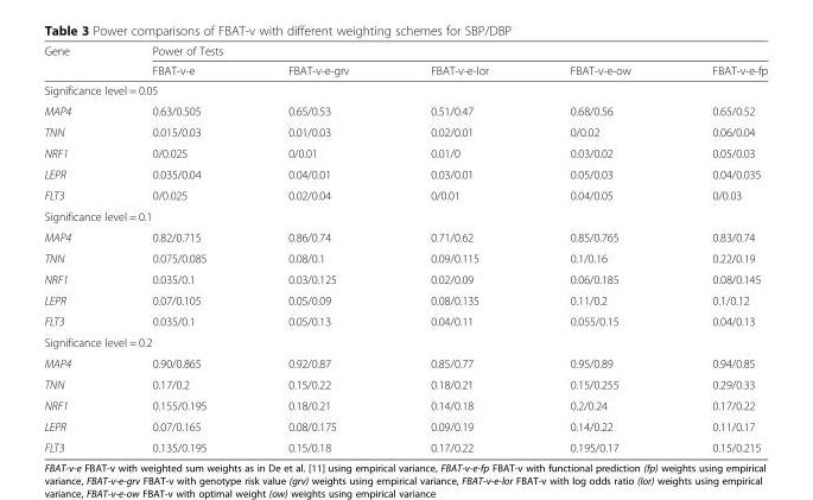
<table><thead><tr><td rowspan="2">Gene</td><td colspan="5">Power of Tests</td></tr><tr><td>FBAT-v-e</td><td>FBAT-v-e-grv</td><td>FBAT-v-e-lor</td><td>FBAT-v-e-ow</td><td>FBAT-v-e-fp</td></tr></thead><tbody><tr><td colspan="6">Significance level = 0.05</td></tr><tr><td>MAP4</td><td>0.63/0.505</td><td>0.65/0.53</td><td>0.51/0.47</td><td>0.68/0.56</td><td>0.65/0.52</td></tr><tr><td>TNN</td><td>0.015/0.03</td><td>0.01/0.03</td><td>0.02/0.01</td><td>0/0.02</td><td>0.06/0.04</td></tr><tr><td>NRF1</td><td>0/0.025</td><td>0/0.01</td><td>0.01/0</td><td>0.03/0.02</td><td>0.05/0.03</td></tr><tr><td>LEPR</td><td>0.035/0.04</td><td>0.04/0.01</td><td>0.03/0.01</td><td>0.05/0.03</td><td>0.04/0.035</td></tr><tr><td>FLT3</td><td>0/0.025</td><td>0.02/0.04</td><td>0/0.01</td><td>0.04/0.05</td><td>0/0.03</td></tr><tr><td colspan="6">Significance level = 0.1</td></tr><tr><td>MAP4</td><td>0.82/0.715</td><td>0.86/0.74</td><td>0.71/0.62</td><td>0.85/0.765</td><td>0.83/0.74</td></tr><tr><td>TNN</td><td>0.075/0.085</td><td>0.08/0.1</td><td>0.09/0.115</td><td>0.1/0.16</td><td>0.22/0.19</td></tr><tr><td>NRF1</td><td>0.035/0.1</td><td>0.03/0.125</td><td>0.02/0.09</td><td>0.06/0.185</td><td>0.08/0.145</td></tr><tr><td>LEPR</td><td>0.07/0.105</td><td>0.05/0.09</td><td>0.08/0.135</td><td>0.11/0.2</td><td>0.1/0.12</td></tr><tr><td>FLT3</td><td>0.035/0.1</td><td>0.05/0.13</td><td>0.04/0.11</td><td>0.055/0.15</td><td>0.04/0.13</td></tr><tr><td colspan="6">Significance level = 0.2</td></tr><tr><td>MAP4</td><td>0.90/0.865</td><td>0.92/0.87</td><td>0.85/0.77</td><td>0.95/0.89</td><td>0.94/0.85</td></tr><tr><td>TNN</td><td>0.17/0.2</td><td>0.15/0.22</td><td>0.18/0.21</td><td>0.15/0.255</td><td>0.29/0.33</td></tr><tr><td>NRF1</td><td>0.155/0.195</td><td>0.18/0.21</td><td>0.14/0.18</td><td>0.2/0.24</td><td>0.17/0.22</td></tr><tr><td>LEPR</td><td>0.07/0.165</td><td>0.08/0.175</td><td>0.09/0.19</td><td>0.14/0.22</td><td>0.11/0.17</td></tr><tr><td>FLT3</td><td>0.135/0.195</td><td>0.15/0.18</td><td>0.17/0.22</td><td>0.195/0.17</td><td>0.15/0.215</td></tr></tbody></table>